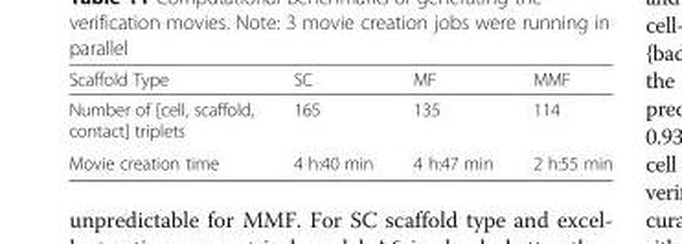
<table><thead><tr><td>Scaffold Type</td><td>SC</td><td>MF</td><td>MMF</td></tr></thead><tbody><tr><td>Number of [cell, scaffold, contact] triplets</td><td>165</td><td>135</td><td>114</td></tr><tr><td>Movie creation time</td><td>4 h:40 min</td><td>4 h:47 min</td><td>2 h:55 min</td></tr></tbody></table>